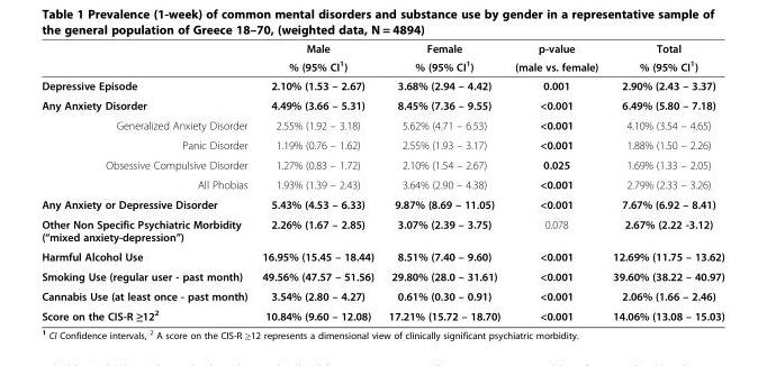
<table><thead><tr><td rowspan="2"></td><td rowspan="2">Male % (95% CI<sup>1</sup>)</td><td rowspan="2">Female % (95% CI<sup>1</sup>)</td><td rowspan="2">p-value (male vs. female)</td><td rowspan="2">Total % (95% CI<sup>1</sup>)</td></tr><tr></tr></thead><tbody><tr><td>Depressive Episode</td><td>2.10% (1.53 – 2.67)</td><td>3.68% (2.94 – 4.42)</td><td>0.001</td><td>2.90% (2.43 – 3.37)</td></tr><tr><td>Any Anxiety Disorder</td><td>4.49% (3.66 – 5.31)</td><td>8.45% (7.36 – 9.55)</td><td>&lt;0.001</td><td>6.49% (5.80 – 7.18)</td></tr><tr><td>Generalized Anxiety Disorder</td><td>2.55% (1.92 – 3.18)</td><td>5.62% (4.71 – 6.53)</td><td>&lt;0.001</td><td>4.10% (3.54 – 4.65)</td></tr><tr><td>Panic Disorder</td><td>1.19% (0.76 – 1.62)</td><td>2.55% (1.93 – 3.17)</td><td>&lt;0.001</td><td>1.88% (1.50 – 2.26)</td></tr><tr><td>Obsessive Compulsive Disorder</td><td>1.27% (0.83 – 1.72)</td><td>2.10% (1.54 – 2.67)</td><td>0.025</td><td>1.69% (1.33 – 2.05)</td></tr><tr><td>All Phobias</td><td>1.93% (1.39 – 2.43)</td><td>3.64% (2.90 – 4.38)</td><td>&lt;0.001</td><td>2.79% (2.33 – 3.26)</td></tr><tr><td>Any Anxiety or Depressive Disorder</td><td>5.43% (4.53 – 6.33)</td><td>9.87% (8.69 – 11.05)</td><td>&lt;0.001</td><td>7.67% (6.92 – 8.41)</td></tr><tr><td>Other Non Specific Psychiatric Morbidity (“mixed anxiety-depression”)</td><td>2.26% (1.67 – 2.85)</td><td>3.07% (2.39 – 3.75)</td><td>0.078</td><td>2.67% (2.22 -3.12)</td></tr><tr><td>Harmful Alcohol Use</td><td>16.95% (15.45 – 18.44)</td><td>8.51% (7.40 – 9.60)</td><td>&lt;0.001</td><td>12.69% (11.75 – 13.62)</td></tr><tr><td>Smoking Use (regular user - past month)</td><td>49.56% (47.57 – 51.56)</td><td>29.80% (28.0 – 31.61)</td><td>&lt;0.001</td><td>39.60% (38.22 – 40.97)</td></tr><tr><td>Cannabis Use (at least once - past month)</td><td>3.54% (2.80 – 4.27)</td><td>0.61% (0.30 – 0.91)</td><td>&lt;0.001</td><td>2.06% (1.66 – 2.46)</td></tr><tr><td>Score on the CIS-R ≥12<sup>2</sup></td><td>10.84% (9.60 – 12.08)</td><td>17.21% (15.72 – 18.70)</td><td>&lt;0.001</td><td>14.06% (13.08 – 15.03)</td></tr></tbody></table>